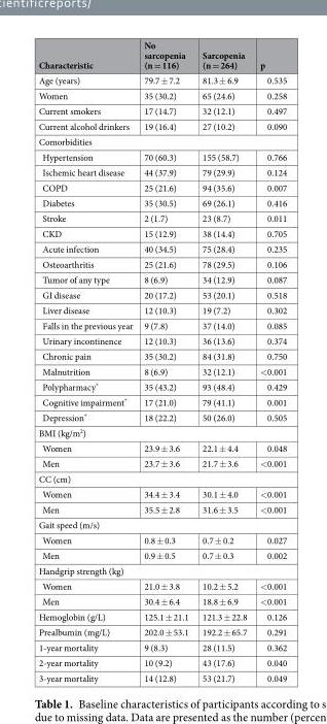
<table><thead><tr><td>Characteristic</td><td>No sarcopenia (n = 116)</td><td>Sarcopenia (n = 264)</td><td>p</td></tr></thead><tbody><tr><td>Age (years)</td><td>79.7 ± 7.2</td><td>81.3 ± 6.9</td><td>0.535</td></tr><tr><td>Women</td><td>35 (30.2)</td><td>65 (24.6)</td><td>0.258</td></tr><tr><td>Current smokers</td><td>17 (14.7)</td><td>32 (12.1)</td><td>0.497</td></tr><tr><td>Current alcohol drinkers</td><td>19 (16.4)</td><td>27 (10.2)</td><td>0.090</td></tr><tr><td colspan="4">Comorbidities</td></tr><tr><td>Hypertension</td><td>70 (60.3)</td><td>155 (58.7)</td><td>0.766</td></tr><tr><td>Ischemic heart disease</td><td>44 (37.9)</td><td>79 (29.9)</td><td>0.124</td></tr><tr><td>COPD</td><td>25 (21.6)</td><td>94 (35.6)</td><td>0.007</td></tr><tr><td>Diabetes</td><td>35 (30.5)</td><td>69 (26.1)</td><td>0.416</td></tr><tr><td>Stroke</td><td>2 (1.7)</td><td>23 (8.7)</td><td>0.011</td></tr><tr><td>CKD</td><td>15 (12.9)</td><td>38 (14.4)</td><td>0.705</td></tr><tr><td>Acute infection</td><td>40 (34.5)</td><td>75 (28.4)</td><td>0.235</td></tr><tr><td>Osteoarthritis</td><td>25 (21.6)</td><td>78 (29.5)</td><td>0.106</td></tr><tr><td>Tumor of any type</td><td>8 (6.9)</td><td>34 (12.9)</td><td>0.087</td></tr><tr><td>GI disease</td><td>20 (17.2)</td><td>53 (20.1)</td><td>0.518</td></tr><tr><td>Liver disease</td><td>12 (10.3)</td><td>19 (7.2)</td><td>0.302</td></tr><tr><td>Falls in the previous year</td><td>9 (7.8)</td><td>37 (14.0)</td><td>0.085</td></tr><tr><td>Urinary incontinence</td><td>12 (10.3)</td><td>36 (13.6)</td><td>0.374</td></tr><tr><td>Chronic pain</td><td>35 (30.2)</td><td>84 (31.8)</td><td>0.750</td></tr><tr><td>Malnutrition</td><td>8 (6.9)</td><td>32 (12.1)</td><td>&lt;0.001</td></tr><tr><td>Polypharmacy*</td><td>35 (43.2)</td><td>93 (48.4)</td><td>0.429</td></tr><tr><td>Cognitive impairment*</td><td>17 (21.0)</td><td>79 (41.1)</td><td>0.001</td></tr><tr><td>Depression*</td><td>18 (22.2)</td><td>50 (26.0)</td><td>0.505</td></tr><tr><td colspan="4">BMI (kg/m<sup>2</sup>)</td></tr><tr><td>Women</td><td>23.9 ± 3.6</td><td>22.1 ± 4.4</td><td>0.048</td></tr><tr><td>Men</td><td>23.7 ± 3.6</td><td>21.7 ± 3.6</td><td>&lt;0.001</td></tr><tr><td colspan="4">CC (cm)</td></tr><tr><td>Women</td><td>34.4 ± 3.4</td><td>30.1 ± 4.0</td><td>&lt;0.001</td></tr><tr><td>Men</td><td>35.5 ± 2.8</td><td>31.6 ± 3.5</td><td>&lt;0.001</td></tr><tr><td colspan="4">Gait speed (m/s)</td></tr><tr><td>Women</td><td>0.8 ± 0.3</td><td>0.7 ± 0.2</td><td>0.027</td></tr><tr><td>Men</td><td>0.9 ± 0.5</td><td>0.7 ± 0.3</td><td>0.002</td></tr><tr><td colspan="4">Handgrip strength (kg)</td></tr><tr><td>Women</td><td>21.0 ± 3.8</td><td>10.2 ± 5.2</td><td>&lt;0.001</td></tr><tr><td>Men</td><td>30.4 ± 6.4</td><td>18.8 ± 6.9</td><td>&lt;0.001</td></tr><tr><td>Hemoglobin (g/L)</td><td>125.1 ± 21.1</td><td>121.3 ± 22.8</td><td>0.126</td></tr><tr><td>Prealbumin (mg/L)</td><td>202.0 ± 53.1</td><td>192.2 ± 65.7</td><td>0.291</td></tr><tr><td>1-year mortality</td><td>9 (8.3)</td><td>28 (11.5)</td><td>0.362</td></tr><tr><td>2-year mortality</td><td>10 (9.2)</td><td>43 (17.6)</td><td>0.040</td></tr><tr><td>3-year mortality</td><td>14 (12.8)</td><td>53 (21.7)</td><td>0.049</td></tr></tbody></table>